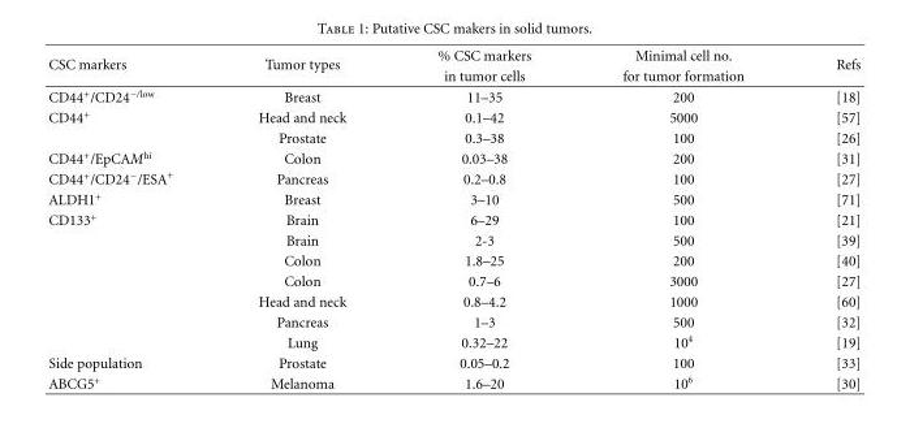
<table><thead><tr><td rowspan="2">CSC markers</td><td rowspan="2">Tumor types</td><td rowspan="2">% CSC markers in tumor cells</td><td rowspan="2">Minimal cell no. for tumor formation</td><td rowspan="2">Refs</td></tr><tr></tr></thead><tbody><tr><td>CD44<sup>+</sup>/CD24<sup>−/low</sup></td><td>Breast</td><td>11–35</td><td>200</td><td>[18]</td></tr><tr><td rowspan="2">CD44<sup>+</sup></td><td>Head and neck</td><td>0.1–42</td><td>5000</td><td>[57]</td></tr><tr><td>Prostate</td><td>0.3–38</td><td>100</td><td>[26]</td></tr><tr><td>CD44<sup>+</sup>/EpCAM<sup>hi</sup></td><td>Colon</td><td>0.03–38</td><td>200</td><td>[31]</td></tr><tr><td>CD44<sup>+</sup>/CD24<sup>−</sup>/ESA<sup>+</sup></td><td>Pancreas</td><td>0.2–0.8</td><td>100</td><td>[27]</td></tr><tr><td>ALDH1<sup>+</sup></td><td>Breast</td><td>3–10</td><td>500</td><td>[71]</td></tr><tr><td rowspan="7">CD133<sup>+</sup></td><td>Brain</td><td>6–29</td><td>100</td><td>[21]</td></tr><tr><td>Brain</td><td>2-3</td><td>500</td><td>[39]</td></tr><tr><td>Colon</td><td>1.8–25</td><td>200</td><td>[40]</td></tr><tr><td>Colon</td><td>0.7–6</td><td>3000</td><td>[27]</td></tr><tr><td>Head and neck</td><td>0.8–4.2</td><td>1000</td><td>[60]</td></tr><tr><td>Pancreas</td><td>1–3</td><td>500</td><td>[32]</td></tr><tr><td>Lung</td><td>0.32–22</td><td>10<sup>4</sup></td><td>[19]</td></tr><tr><td>Side population</td><td>Prostate</td><td>0.05–0.2</td><td>100</td><td>[33]</td></tr><tr><td>ABCG5<sup>+</sup></td><td>Melanoma</td><td>1.6–20</td><td>10<sup>6</sup></td><td>[30]</td></tr></tbody></table>